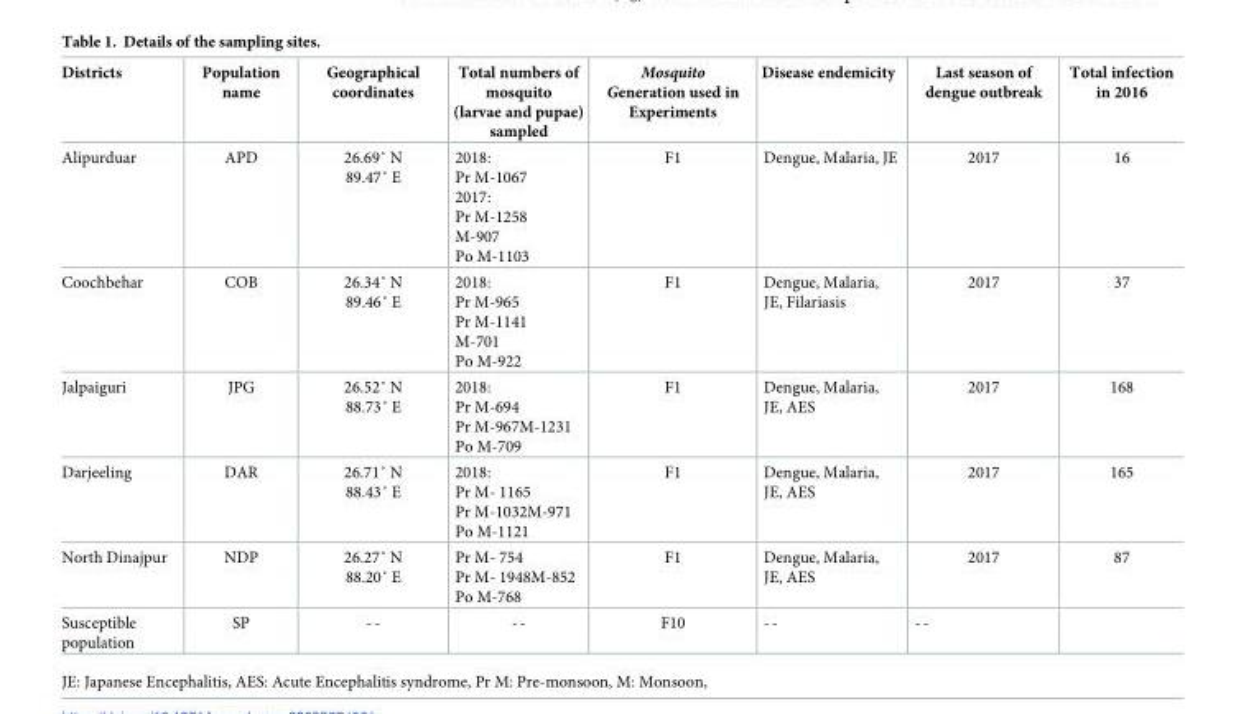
<table><thead><tr><td>Districts</td><td>Population name</td><td>Geographical coordinates</td><td>Total numbers of mosquito (larvae and pupae) sampled</td><td>Mosquito Generation used in Experiments</td><td>Disease endemicity</td><td>Last season of dengue outbreak</td><td>Total infection in 2016</td></tr></thead><tbody><tr><td>Alipurduar</td><td>APD</td><td>26.69˚ N 89.47˚ E</td><td>2018: Pr M-1067 2017: Pr M-1258 M-907 Po M-1103</td><td>F1</td><td>Dengue, Malaria, JE</td><td>2017</td><td>16</td></tr><tr><td>Coochbehar</td><td>COB</td><td>26.34˚ N 89.46˚ E</td><td>2018: Pr M-965 Pr M-1141 M-701 Po M-922</td><td>F1</td><td>Dengue, Malaria, JE, Filariasis</td><td>2017</td><td>37</td></tr><tr><td>Jalpaiguri</td><td>JPG</td><td>26.52˚ N 88.73˚ E</td><td>2018: Pr M-694 Pr M-967M-1231 Po M-709</td><td>F1</td><td>Dengue, Malaria, JE, AES</td><td>2017</td><td>168</td></tr><tr><td>Darjeeling</td><td>DAR</td><td>26.71˚ N 88.43˚ E</td><td>2018: Pr M- 1165 Pr M-1032M-971 Po M-1121</td><td>F1</td><td>Dengue, Malaria, JE, AES</td><td>2017</td><td>165</td></tr><tr><td>North Dinajpur</td><td>NDP</td><td>26.27˚ N 88.20˚ E</td><td>Pr M- 754 Pr M- 1948M-852 Po M-768</td><td>F1</td><td>Dengue, Malaria, JE, AES</td><td>2017</td><td>87</td></tr><tr><td>Susceptible population</td><td>SP</td><td>--</td><td>--</td><td>F10</td><td>--</td><td>--</td><td></td></tr></tbody></table>